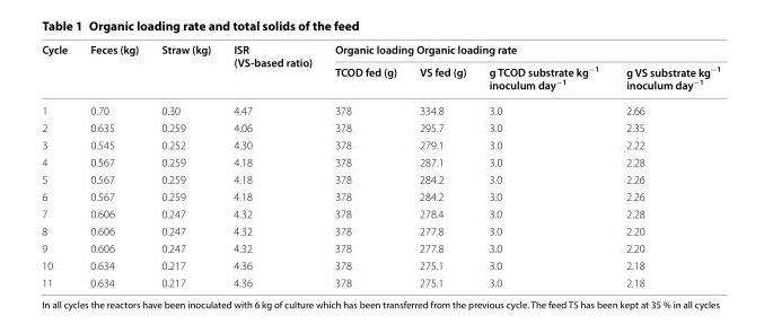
<table><thead><tr><td rowspan="2">Cycle</td><td rowspan="2">Feces (kg)</td><td rowspan="2">Straw (kg)</td><td rowspan="2">ISR (VS-based ratio)</td><td colspan="4">Organic loading Organic loading rate</td></tr><tr><td>TCOD fed (g)</td><td>VS fed (g)</td><td>g TCOD substrate kg<sup>−1</sup> inoculum day<sup>−1</sup></td><td>g VS substrate kg<sup>−1</sup> inoculum day<sup>−1</sup></td></tr></thead><tbody><tr><td>1</td><td>0.70</td><td>0.30</td><td>4.47</td><td>378</td><td>334.8</td><td>3.0</td><td>2.66</td></tr><tr><td>2</td><td>0.635</td><td>0.259</td><td>4.06</td><td>378</td><td>295.7</td><td>3.0</td><td>2.35</td></tr><tr><td>3</td><td>0.545</td><td>0.252</td><td>4.30</td><td>378</td><td>279.1</td><td>3.0</td><td>2.22</td></tr><tr><td>4</td><td>0.567</td><td>0.259</td><td>4.18</td><td>378</td><td>287.1</td><td>3.0</td><td>2.28</td></tr><tr><td>5</td><td>0.567</td><td>0.259</td><td>4.18</td><td>378</td><td>284.2</td><td>3.0</td><td>2.26</td></tr><tr><td>6</td><td>0.567</td><td>0.259</td><td>4.18</td><td>378</td><td>284.2</td><td>3.0</td><td>2.26</td></tr><tr><td>7</td><td>0.606</td><td>0.247</td><td>4.32</td><td>378</td><td>278.4</td><td>3.0</td><td>2.28</td></tr><tr><td>8</td><td>0.606</td><td>0.247</td><td>4.32</td><td>378</td><td>277.8</td><td>3.0</td><td>2.20</td></tr><tr><td>9</td><td>0.606</td><td>0.247</td><td>4.32</td><td>378</td><td>277.8</td><td>3.0</td><td>2.20</td></tr><tr><td>10</td><td>0.634</td><td>0.217</td><td>4.36</td><td>378</td><td>275.1</td><td>3.0</td><td>2.18</td></tr><tr><td>11</td><td>0.634</td><td>0.217</td><td>4.36</td><td>378</td><td>275.1</td><td>3.0</td><td>2.18</td></tr></tbody></table>